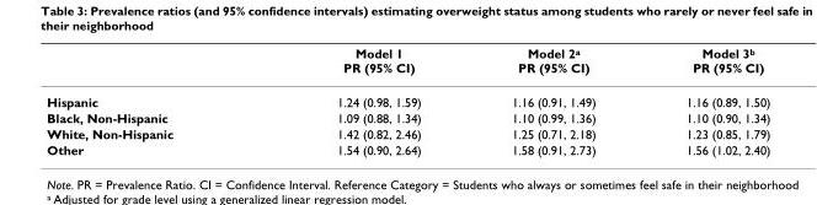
<table><thead><tr><td></td><td>Model 1 PR (95% CI)</td><td>Model 2<sup>a</sup> PR (95% CI)</td><td>Model 3<sup>b</sup> PR (95% CI)</td></tr></thead><tbody><tr><td>Hispanic</td><td>1.24 (0.98, 1.59)</td><td>1.16 (0.91, 1.49)</td><td>1.16 (0.89, 1.50)</td></tr><tr><td>Black, Non-Hispanic</td><td>1.09 (0.88, 1.34)</td><td>1.10 (0.99, 1.36)</td><td>1.10 (0.90, 1.34)</td></tr><tr><td>White, Non-Hispanic</td><td>1.42 (0.82, 2.46)</td><td>1.25 (0.71, 2.18)</td><td>1.23 (0.85, 1.79)</td></tr><tr><td>Other</td><td>1.54 (0.90, 2.64)</td><td>1.58 (0.91, 2.73)</td><td>1.56 (1.02, 2.40)</td></tr></tbody></table>